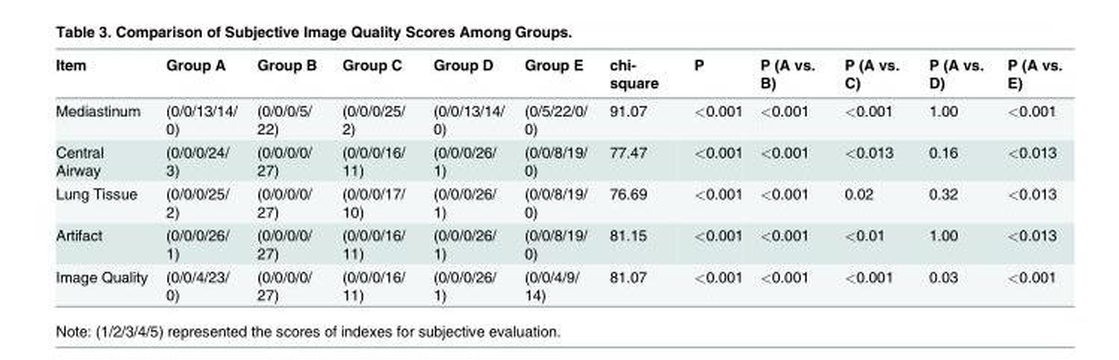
<table><thead><tr><td>Item</td><td>Group A</td><td>Group B</td><td>Group C</td><td>Group D</td><td>Group E</td><td>chi- square</td><td>P</td><td>P (A vs. B)</td><td>P (A vs. C)</td><td>P (A vs. D)</td><td>P (A vs. E)</td></tr></thead><tbody><tr><td>Mediastinum</td><td>(0/0/13/14/ 0)</td><td>(0/0/0/5/ 22)</td><td>(0/0/0/25/ 2)</td><td>(0/0/13/14/ 0)</td><td>(0/5/22/0/ 0)</td><td>91.07</td><td>&lt;0.001</td><td>&lt;0.001</td><td>&lt;0.001</td><td>1.00</td><td>&lt;0.001</td></tr><tr><td>Central Airway</td><td>(0/0/0/24/ 3)</td><td>(0/0/0/0/ 27)</td><td>(0/0/0/16/ 11)</td><td>(0/0/0/26/ 1)</td><td>(0/0/8/19/ 0)</td><td>77.47</td><td>&lt;0.001</td><td>&lt;0.001</td><td>&lt;0.013</td><td>0.16</td><td>&lt;0.013</td></tr><tr><td>Lung Tissue</td><td>(0/0/0/25/ 2)</td><td>(0/0/0/0/ 27)</td><td>(0/0/0/17/ 10)</td><td>(0/0/0/26/ 1)</td><td>(0/0/8/19/ 0)</td><td>76.69</td><td>&lt;0.001</td><td>&lt;0.001</td><td>0.02</td><td>0.32</td><td>&lt;0.013</td></tr><tr><td>Artifact</td><td>(0/0/0/26/ 1)</td><td>(0/0/0/0/ 27)</td><td>(0/0/0/16/ 11)</td><td>(0/0/0/26/ 1)</td><td>(0/0/8/19/ 0)</td><td>81.15</td><td>&lt;0.001</td><td>&lt;0.001</td><td>&lt;0.01</td><td>1.00</td><td>&lt;0.013</td></tr><tr><td>Image Quality</td><td>(0/0/4/23/ 0)</td><td>(0/0/0/0/ 27)</td><td>(0/0/0/16/ 11)</td><td>(0/0/0/26/ 1)</td><td>(0/0/4/9/ 14)</td><td>81.07</td><td>&lt;0.001</td><td>&lt;0.001</td><td>&lt;0.001</td><td>0.03</td><td>&lt;0.001</td></tr></tbody></table>